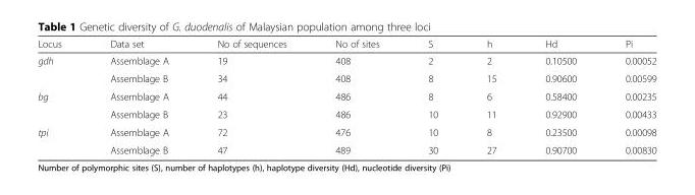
<table><thead><tr><td>Locus</td><td>Data set</td><td>No of sequences</td><td>No of sites</td><td>S</td><td>h</td><td>Hd</td><td>Pi</td></tr></thead><tbody><tr><td rowspan="2">gdh</td><td>Assemblage A</td><td>19</td><td>408</td><td>2</td><td>2</td><td>0.10500</td><td>0.00052</td></tr><tr><td>Assemblage B</td><td>34</td><td>408</td><td>8</td><td>15</td><td>0.90600</td><td>0.00599</td></tr><tr><td rowspan="2">bg</td><td>Assemblage A</td><td>44</td><td>486</td><td>8</td><td>6</td><td>0.58400</td><td>0.00235</td></tr><tr><td>Assemblage B</td><td>23</td><td>486</td><td>10</td><td>11</td><td>0.92900</td><td>0.00433</td></tr><tr><td rowspan="2">tpi</td><td>Assemblage A</td><td>72</td><td>476</td><td>10</td><td>8</td><td>0.23500</td><td>0.00098</td></tr><tr><td>Assemblage B</td><td>47</td><td>489</td><td>30</td><td>27</td><td>0.90700</td><td>0.00830</td></tr></tbody></table>